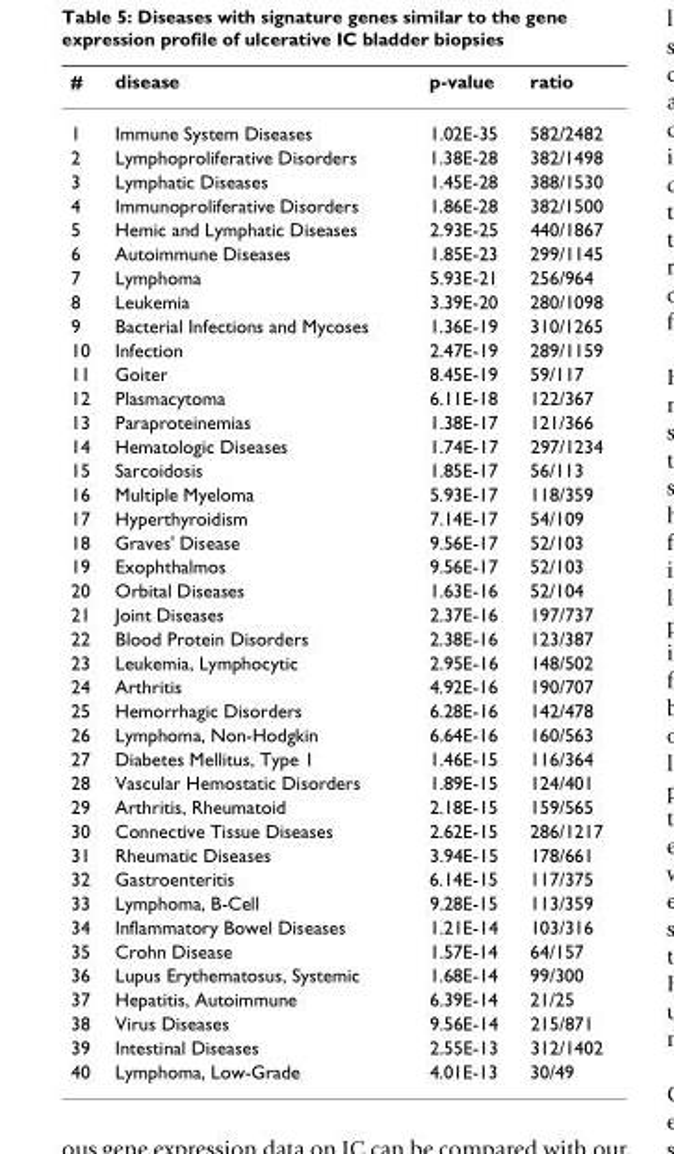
<table><thead><tr><td>#</td><td>disease</td><td>p-value</td><td>ratio</td></tr></thead><tbody><tr><td>1</td><td>Immune System Diseases</td><td>1.02E-35</td><td>582/2482</td></tr><tr><td>2</td><td>Lymphoproliferative Disorders</td><td>1.38E-28</td><td>382/1498</td></tr><tr><td>3</td><td>Lymphatic Diseases</td><td>1.45E-28</td><td>388/1530</td></tr><tr><td>4</td><td>Immunoproliferative Disorders</td><td>1.86E-28</td><td>382/1500</td></tr><tr><td>5</td><td>Hemic and Lymphatic Diseases</td><td>2.93E-25</td><td>440/1867</td></tr><tr><td>6</td><td>Autoimmune Diseases</td><td>1.85E-23</td><td>299/1145</td></tr><tr><td>7</td><td>Lymphoma</td><td>5.93E-21</td><td>256/964</td></tr><tr><td>8</td><td>Leukemia</td><td>3.39E-20</td><td>280/1098</td></tr><tr><td>9</td><td>Bacterial Infections and Mycoses</td><td>1.36E-19</td><td>310/1265</td></tr><tr><td>10</td><td>Infection</td><td>2.47E-19</td><td>289/1159</td></tr><tr><td>11</td><td>Goiter</td><td>8.45E-19</td><td>59/117</td></tr><tr><td>12</td><td>Plasmacytoma</td><td>6.11E-18</td><td>122/367</td></tr><tr><td>13</td><td>Paraproteinemias</td><td>1.38E-17</td><td>121/366</td></tr><tr><td>14</td><td>Hematologic Diseases</td><td>1.74E-17</td><td>297/1234</td></tr><tr><td>15</td><td>Sarcoidosis</td><td>1.85E-17</td><td>56/113</td></tr><tr><td>16</td><td>Multiple Myeloma</td><td>5.93E-17</td><td>118/359</td></tr><tr><td>17</td><td>Hyperthyroidism</td><td>7.14E-17</td><td>54/109</td></tr><tr><td>18</td><td>Graves&#x27; Disease</td><td>9.56E-17</td><td>52/103</td></tr><tr><td>19</td><td>Exophthalmos</td><td>9.56E-17</td><td>52/103</td></tr><tr><td>20</td><td>Orbital Diseases</td><td>1.63E-16</td><td>52/104</td></tr><tr><td>21</td><td>Joint Diseases</td><td>2.37E-16</td><td>197/737</td></tr><tr><td>22</td><td>Blood Protein Disorders</td><td>2.38E-16</td><td>123/387</td></tr><tr><td>23</td><td>Leukemia, Lymphocytic</td><td>2.95E-16</td><td>148/502</td></tr><tr><td>24</td><td>Arthritis</td><td>4.92E-16</td><td>190/707</td></tr><tr><td>25</td><td>Hemorrhagic Disorders</td><td>6.28E-16</td><td>142/478</td></tr><tr><td>26</td><td>Lymphoma, Non-Hodgkin</td><td>6.64E-16</td><td>160/563</td></tr><tr><td>27</td><td>Diabetes Mellitus, Type 1</td><td>1.46E-15</td><td>116/364</td></tr><tr><td>28</td><td>Vascular Hemostatic Disorders</td><td>1.89E-15</td><td>124/401</td></tr><tr><td>29</td><td>Arthritis, Rheumatoid</td><td>2.18E-15</td><td>159/565</td></tr><tr><td>30</td><td>Connective Tissue Diseases</td><td>2.62E-15</td><td>286/1217</td></tr><tr><td>31</td><td>Rheumatic Diseases</td><td>3.94E-15</td><td>178/661</td></tr><tr><td>32</td><td>Gastroenteritis</td><td>6.14E-15</td><td>117/375</td></tr><tr><td>33</td><td>Lymphoma, B-Cell</td><td>9.28E-15</td><td>113/359</td></tr><tr><td>34</td><td>Inflammatory Bowel Diseases</td><td>1.21E-14</td><td>103/316</td></tr><tr><td>35</td><td>Crohn Disease</td><td>1.57E-14</td><td>64/157</td></tr><tr><td>36</td><td>Lupus Erythematosus, Systemic</td><td>1.68E-14</td><td>99/300</td></tr><tr><td>37</td><td>Hepatitis, Autoimmune</td><td>6.39E-14</td><td>21/25</td></tr><tr><td>38</td><td>Virus Diseases</td><td>9.56E-14</td><td>215/871</td></tr><tr><td>39</td><td>Intestinal Diseases</td><td>2.55E-13</td><td>312/1402</td></tr><tr><td>40</td><td>Lymphoma, Low-Grade</td><td>4.01E-13</td><td>30/49</td></tr></tbody></table>